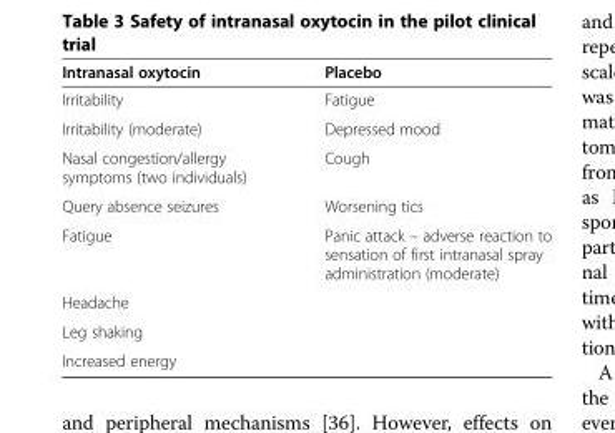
<table><thead><tr><td>Intranasal oxytocin</td><td>Placebo</td></tr></thead><tbody><tr><td>Irritability</td><td>Fatigue</td></tr><tr><td>Irritability (moderate)</td><td>Depressed mood</td></tr><tr><td>Nasal congestion/allergy symptoms (two individuals)</td><td>Cough</td></tr><tr><td>Query absence seizures</td><td>Worsening tics</td></tr><tr><td>Fatigue</td><td>Panic attack – adverse reaction to sensation of first intranasal spray administration (moderate)</td></tr><tr><td colspan="2">Headache</td></tr><tr><td colspan="2">Leg shaking</td></tr><tr><td>Increased energy</td><td></td></tr></tbody></table>